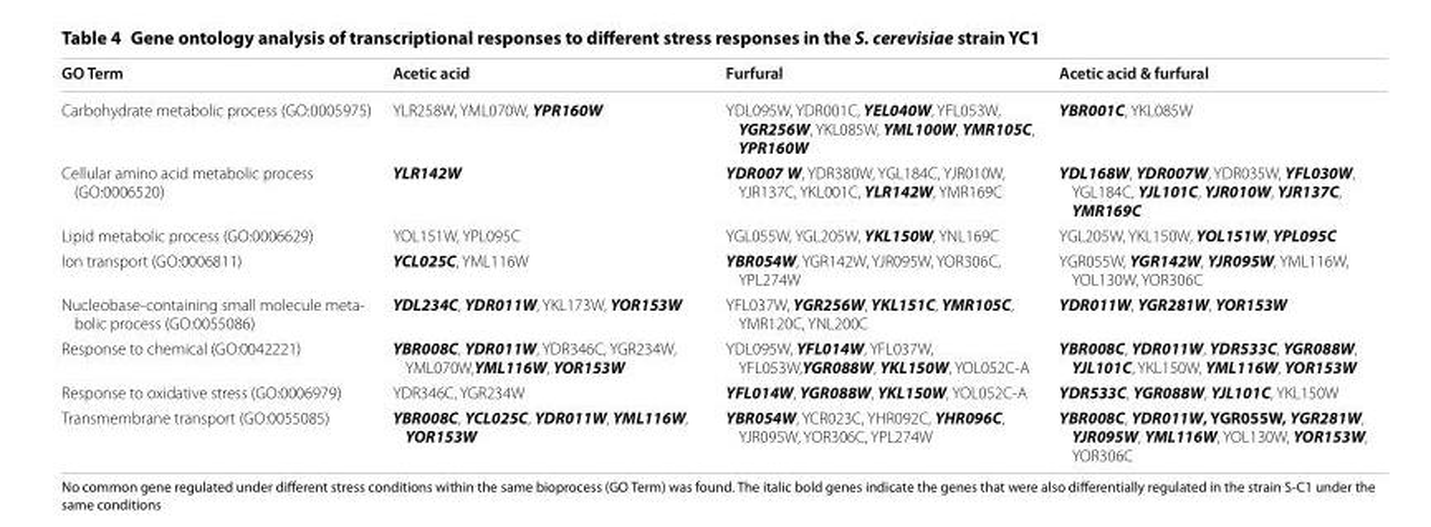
<table><thead><tr><td>GO Term</td><td>Acetic acid</td><td>Furfural</td><td>Acetic acid &amp; furfural</td></tr></thead><tbody><tr><td>Carbohydrate metabolic process (GO:0005975)</td><td>YLR258W, YML070W, YPR160W</td><td>YDL095W, YDR001C, YEL040W, YFL053W, YGR256W, YKL085W, YML100W, YMR105C, YPR160W</td><td>YBR001C, YKL085W</td></tr><tr><td>Cellular amino acid metabolic process (GO:0006520)</td><td>YLR142W</td><td>YDR007 W, YDR380W, YGL184C, YJR010W, YJR137C, YKL001C, YLR142W, YMR169C</td><td>YDL168W, YDR007W, YDR035W, YFL030W, YGL184C, YJL101C, YJR010W, YJR137C, YMR169C</td></tr><tr><td>Lipid metabolic process (GO:0006629)</td><td>YOL151W, YPL095C</td><td>YGL055W, YGL205W, YKL150W, YNL169C</td><td>YGL205W, YKL150W, YOL151W, YPL095C</td></tr><tr><td>Ion transport (GO:0006811)</td><td>YCL025C, YML116W</td><td>YBR054W, YGR142W, YJR095W, YOR306C, YPL274W</td><td>YGR055W, YGR142W, YJR095W, YML116W, YOL130W, YOR306C</td></tr><tr><td>Nucleobase-containing small molecule meta- bolic process (GO:0055086)</td><td>YDL234C, YDR011W, YKL173W, YOR153W</td><td>YFL037W, YGR256W, YKL151C, YMR105C, YMR120C, YNL200C</td><td>YDR011W, YGR281W, YOR153W</td></tr><tr><td>Response to chemical (GO:0042221)</td><td>YBR008C, YDR011W, YDR346C, YGR234W, YML070W,YML116W, YOR153W</td><td>YDL095W, YFL014W, YFL037W, YFL053W,YGR088W, YKL150W, YOL052C-A</td><td>YBR008C, YDR011W, YDR533C, YGR088W, YJL101C, YKL150W, YML116W, YOR153W</td></tr><tr><td>Response to oxidative stress (GO:0006979)</td><td>YDR346C, YGR234W</td><td>YFL014W, YGR088W, YKL150W, YOL052C-A</td><td>YDR533C, YGR088W, YJL101C, YKL150W</td></tr><tr><td>Transmembrane transport (GO:0055085)</td><td>YBR008C, YCL025C, YDR011W, YML116W, YOR153W</td><td>YBR054W, YCR023C, YHR092C, YHR096C, YJR095W, YOR306C, YPL274W</td><td>YBR008C, YDR011W, YGR055W, YGR281W, YJR095W, YML116W, YOL130W, YOR153W, YOR306C</td></tr></tbody></table>